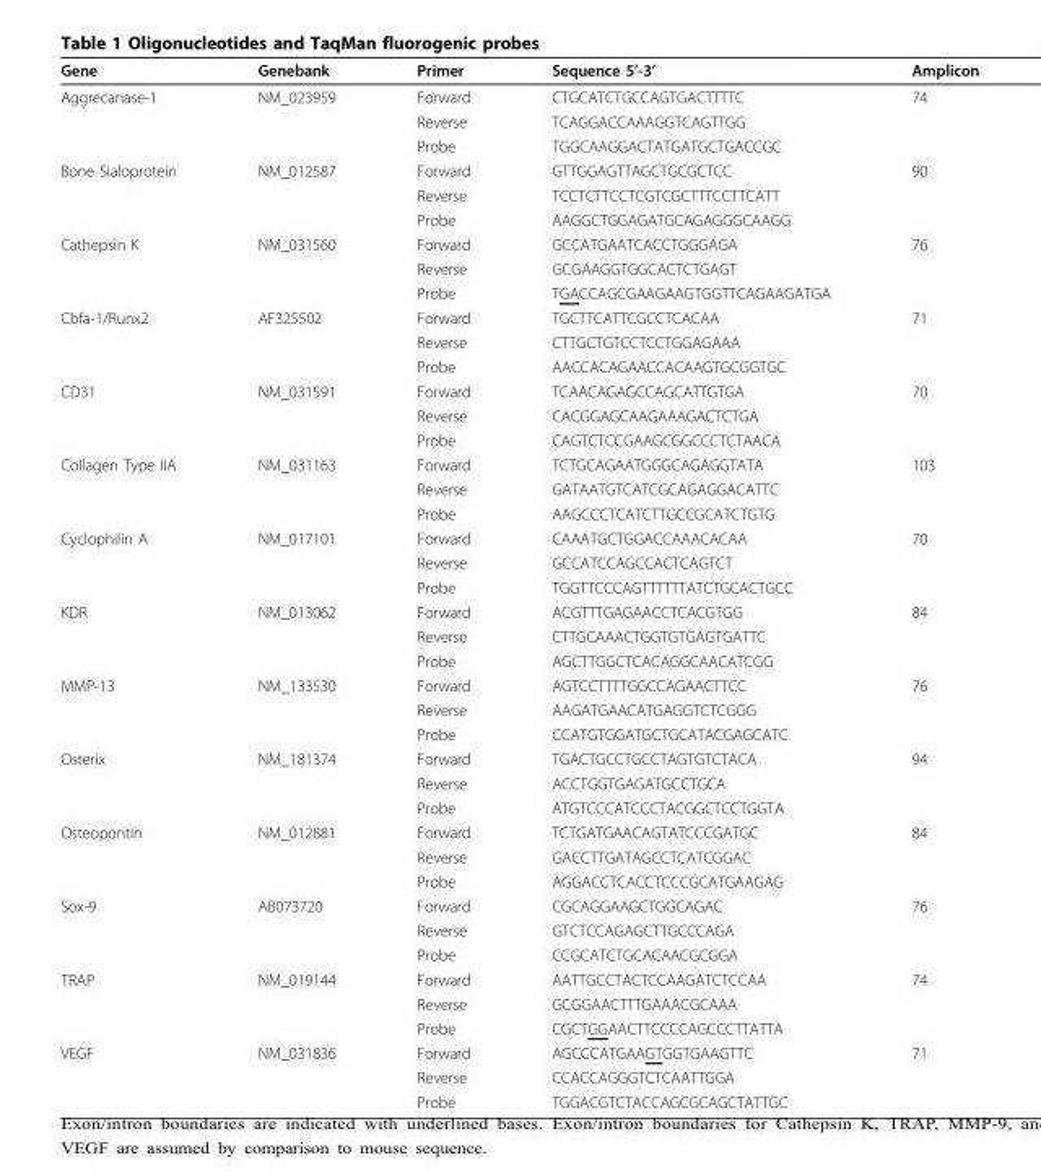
<table><thead><tr><td>Gene</td><td>Genebank</td><td>Primer</td><td>Sequence 5’-3’</td><td>Amplicon</td></tr></thead><tbody><tr><td rowspan="3">Aggrecanase-1</td><td>NM_023959</td><td>Forward</td><td>CTGCATCTGCCAGTGACTTTTC</td><td>74</td></tr><tr><td></td><td>Reverse</td><td>TCAGGACCAAAGGTCAGTTGG</td><td></td></tr><tr><td></td><td>Probe</td><td>TGGCAAGGACTATGATGCTGACCGC</td><td></td></tr><tr><td rowspan="3">Bone Sialoprotein</td><td>NM_012587</td><td>Forward</td><td>GTTGGAGTTAGCTGCGCTCC</td><td>90</td></tr><tr><td></td><td>Reverse</td><td>TCCTCTTCCTCGTCGCTTTCCTTCATT</td><td></td></tr><tr><td></td><td>Probe</td><td>AAGGCTGGAGATGCAGAGGGCAAGG</td><td></td></tr><tr><td rowspan="3">Cathepsin K</td><td>NM_031560</td><td>Forward</td><td>GCCATGAATCACCTGGGAGA</td><td>76</td></tr><tr><td></td><td>Reverse</td><td>GCGAAGGTGGCACTCTGAGT</td><td></td></tr><tr><td></td><td>Probe</td><td>TGACCAGCGAAGAAGTGGTTCAGAAGATGA</td><td></td></tr><tr><td rowspan="3">Cbfa-1/Runx2</td><td>AF325502</td><td>Forward</td><td>TGCTTCATTCGCCTCACAA</td><td>71</td></tr><tr><td></td><td>Reverse</td><td>CTTGCTGTCCTCCTGGAGAAA</td><td></td></tr><tr><td></td><td>Probe</td><td>AACCACAGAACCACAAGTGCGGTGC</td><td></td></tr><tr><td rowspan="3">CD31</td><td>NM_031591</td><td>Forward</td><td>TCAACAGAGCCAGCATTGTGA</td><td>70</td></tr><tr><td></td><td>Reverse</td><td>CACGGAGCAAGAAAGACTCTGA</td><td></td></tr><tr><td></td><td>Probe</td><td>CAGTCTCCGAAGCGGCCCTCTAACA</td><td></td></tr><tr><td rowspan="3">Collagen Type IIA</td><td>NM_031163</td><td>Forward</td><td>TCTGCAGAATGGGCAGAGGTATA</td><td>103</td></tr><tr><td></td><td>Reverse</td><td>GATAATGTCATCGCAGAGGACATTC</td><td></td></tr><tr><td></td><td>Probe</td><td>AAGCCCTCATCTTGCCGCATCTGTG</td><td></td></tr><tr><td rowspan="3">Cyclophilin A</td><td>NM_017101</td><td>Forward</td><td>CAAATGCTGGACCAAACACAA</td><td>70</td></tr><tr><td></td><td>Reverse</td><td>GCCATCCAGCCACTCAGTCT</td><td></td></tr><tr><td></td><td>Probe</td><td>TGGTTCCCAGTTTTTTATCTGCACTGCC</td><td></td></tr><tr><td rowspan="3">KDR</td><td>NM_013062</td><td>Forward</td><td>ACGTTTGAGAACCTCACGTGG</td><td>84</td></tr><tr><td></td><td>Reverse</td><td>CTTGCAAACTGGTGTGAGTGATTC</td><td></td></tr><tr><td></td><td>Probe</td><td>AGCTTGGCTCACAGGCAACATCGG</td><td></td></tr><tr><td rowspan="3">MMP-13</td><td>NM_133530</td><td>Forward</td><td>AGTCCTTTTGGCCAGAACTTCC</td><td>76</td></tr><tr><td></td><td>Reverse</td><td>AAGATGAACATGAGGTCTCGGG</td><td></td></tr><tr><td></td><td>Probe</td><td>CCATGTGGATGCTGCATACGAGCATC</td><td></td></tr><tr><td rowspan="3">Osterix</td><td>NM_181374</td><td>Forward</td><td>TGACTGCCTGCCTAGTGTCTACA</td><td>94</td></tr><tr><td></td><td>Reverse</td><td>ACCTGGTGAGATGCCTGCA</td><td></td></tr><tr><td></td><td>Probe</td><td>ATGTCCCATCCCTACGGCTCCTGGTA</td><td></td></tr><tr><td rowspan="3">Osteopontin</td><td>NM_012881</td><td>Forward</td><td>TCTGATGAACAGTATCCCGATGC</td><td>84</td></tr><tr><td></td><td>Reverse</td><td>GACCTTGATAGCCTCATCGGAC</td><td></td></tr><tr><td></td><td>Probe</td><td>AGGACCTCACCTCCCGCATGAAGAG</td><td></td></tr><tr><td rowspan="3">Sox-9</td><td>AB073720</td><td>Forward</td><td>CGCAGGAAGCTGGCAGAC</td><td>76</td></tr><tr><td></td><td>Reverse</td><td>GTCTCCAGAGCTTGCCCAGA</td><td></td></tr><tr><td></td><td>Probe</td><td>CCGCATCTGCACAACGCGGA</td><td></td></tr><tr><td rowspan="3">TRAP</td><td>NM_019144</td><td>Forward</td><td>AATTGCCTACTCCAAGATCTCCAA</td><td>74</td></tr><tr><td></td><td>Reverse</td><td>GCGGAACTTTGAAACGCAAA</td><td></td></tr><tr><td></td><td>Probe</td><td>CGCTGGAACTTCCCCAGCCCTTATTA</td><td></td></tr><tr><td rowspan="3">VEGF</td><td>NM_031836</td><td>Forward</td><td>AGCCCATGAAGTGGTGAAGTTC</td><td>71</td></tr><tr><td></td><td>Reverse</td><td>CCACCAGGGTCTCAATTGGA</td><td></td></tr><tr><td></td><td>Probe</td><td>TGGACGTCTACCAGCGCAGCTATTGC</td><td></td></tr></tbody></table>